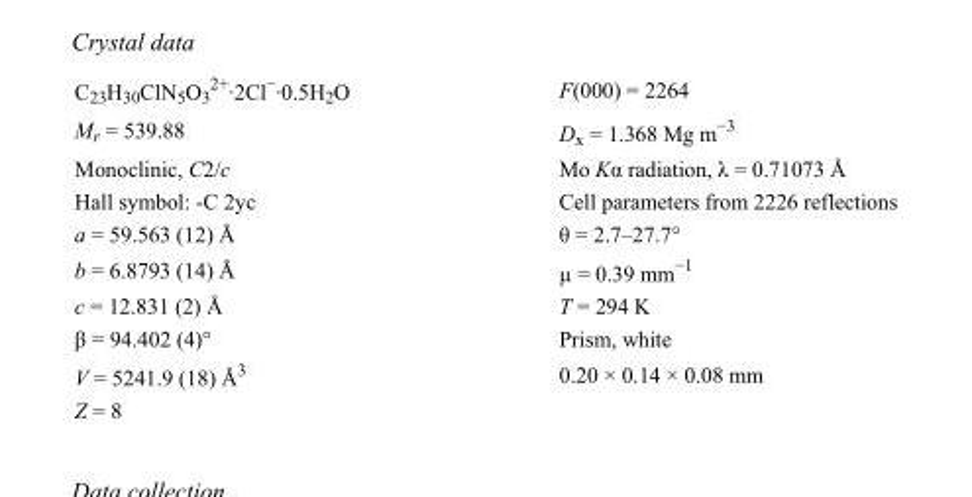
<table><tbody><tr><td>C<sub>23</sub>H<sub>30</sub>ClN<sub>5</sub>O<sub>3</sub> <sup>2+</sup>·2Cl<sup>−</sup>·0.5H<sub>2</sub>O</td><td>F(000) = 2264</td></tr><tr><td>M<sub>r</sub> = 539.88</td><td>D<sub>x</sub> = 1.368 Mg m<sup>−3</sup></td></tr><tr><td>Monoclinic, C2/c</td><td>Mo Kα radiation, λ = 0.71073 Å</td></tr><tr><td>Hall symbol: -C 2yc</td><td>Cell parameters from 2226 reflections</td></tr><tr><td>a = 59.563 (12) Å</td><td>θ = 2.7–27.7°</td></tr><tr><td>b = 6.8793 (14) Å</td><td>µ = 0.39 mm<sup>−1</sup></td></tr><tr><td>c = 12.831 (2) Å</td><td>T = 294 K</td></tr><tr><td>β = 94.402 (4)°</td><td>Prism, white</td></tr><tr><td>V = 5241.9 (18) Å<sup>3</sup></td><td>0.20 × 0.14 × 0.08 mm</td></tr><tr><td>Z = 8</td><td></td></tr></tbody></table>